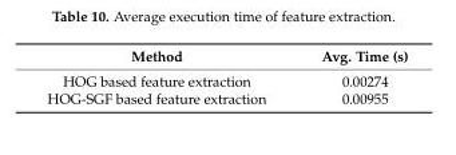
<table><thead><tr><td>Method</td><td>Avg. Time (s)</td></tr></thead><tbody><tr><td>HOG based feature extraction</td><td>0.00274</td></tr><tr><td>HOG-SGF based feature extraction</td><td>0.00955</td></tr></tbody></table>